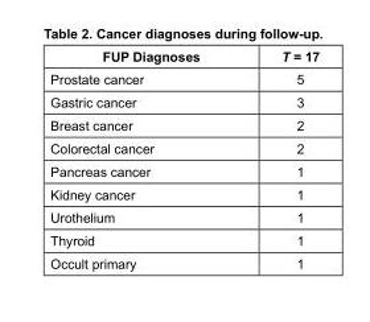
<table><thead><tr><td>FUP Diagnoses</td><td>T = 17</td></tr></thead><tbody><tr><td>Prostate cancer</td><td>5</td></tr><tr><td>Gastric cancer</td><td>3</td></tr><tr><td>Breast cancer</td><td>2</td></tr><tr><td>Colorectal cancer</td><td>2</td></tr><tr><td>Pancreas cancer</td><td>1</td></tr><tr><td>Kidney cancer</td><td>1</td></tr><tr><td>Urothelium</td><td>1</td></tr><tr><td>Thyroid</td><td>1</td></tr><tr><td>Occult primary</td><td>1</td></tr></tbody></table>